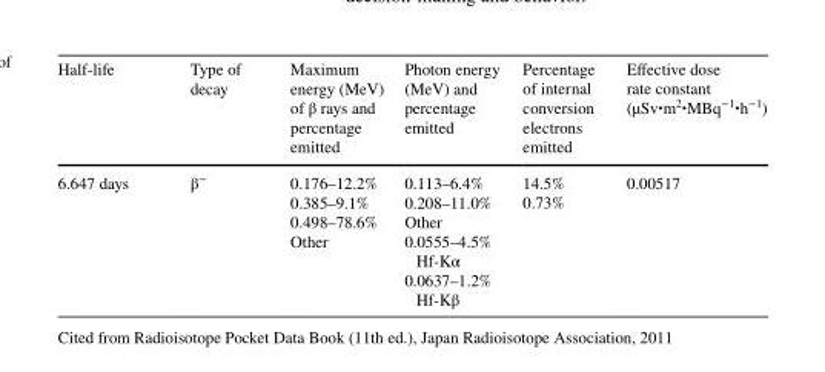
<table><thead><tr><td>Half-life</td><td>Type of decay</td><td>Maximum energy (MeV) of β rays and percentage emitted</td><td>Photon energy (MeV) and percentage emitted</td><td>Percentage of internal conversion electrons emitted</td><td>Effective dose rate constant (µSv・m<sup>2</sup>・MBq<sup>−1</sup>・h<sup>−1</sup>)</td></tr></thead><tbody><tr><td>6.647 days</td><td>β<sup>−</sup></td><td>0.176–12.2% 0.385–9.1% 0.498–78.6% Other</td><td>0.113–6.4% 0.208–11.0% Other 0.0555–4.5% Hf-Kα 0.0637–1.2% Hf-Kβ</td><td>14.5% 0.73%</td><td>0.00517</td></tr></tbody></table>